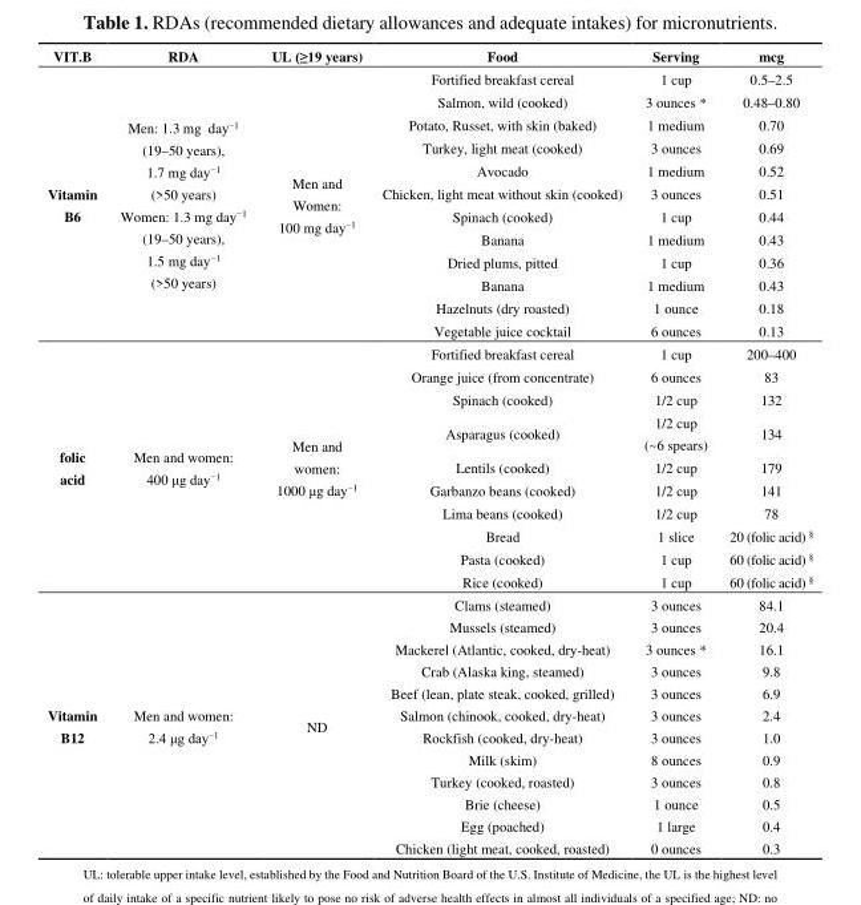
<table><thead><tr><td>VIT.B</td><td>RDA</td><td>UL (≥19 years)</td><td>Food</td><td>Serving</td><td>mcg</td></tr></thead><tbody><tr><td rowspan="12">Vitamin B6</td><td rowspan="12">Men: 1.3 mg day<sup>−1</sup> (19–50 years), 1.7 mg day<sup>−1</sup> (&gt;50 years) Women: 1.3 mg day<sup>−1</sup> (19–50 years), 1.5 mg day<sup>−1</sup> (&gt;50 years)</td><td rowspan="12">Men and Women: 100 mg day<sup>−1</sup></td><td>Fortified breakfast cereal</td><td>1 cup</td><td>0.5–2.5</td></tr><tr><td>Salmon, wild (cooked)</td><td>3 ounces *</td><td>0.48–0.80</td></tr><tr><td>Potato, Russet, with skin (baked)</td><td>1 medium</td><td>0.70</td></tr><tr><td>Turkey, light meat (cooked)</td><td>3 ounces</td><td>0.69</td></tr><tr><td>Avocado</td><td>1 medium</td><td>0.52</td></tr><tr><td>Chicken, light meat without skin (cooked)</td><td>3 ounces</td><td>0.51</td></tr><tr><td>Spinach (cooked)</td><td>1 cup</td><td>0.44</td></tr><tr><td>Banana</td><td>1 medium</td><td>0.43</td></tr><tr><td>Dried plums, pitted</td><td>1 cup</td><td>0.36</td></tr><tr><td>Banana</td><td>1 medium</td><td>0.43</td></tr><tr><td>Hazelnuts (dry roasted)</td><td>1 ounce</td><td>0.18</td></tr><tr><td>Vegetable juice cocktail</td><td>6 ounces</td><td>0.13</td></tr><tr><td rowspan="10">folic acid</td><td rowspan="10">Men and women: 400 μg day<sup>−1</sup></td><td rowspan="10">Men and women: 1000 μg day<sup>−1</sup></td><td>Fortified breakfast cereal</td><td>1 cup</td><td>200–400</td></tr><tr><td>Orange juice (from concentrate)</td><td>6 ounces</td><td>83</td></tr><tr><td>Spinach (cooked)</td><td>1/2 cup</td><td>132</td></tr><tr><td>Asparagus (cooked)</td><td>1/2 cup (~6 spears)</td><td>134</td></tr><tr><td>Lentils (cooked)</td><td>1/2 cup</td><td>179</td></tr><tr><td>Garbanzo beans (cooked)</td><td>1/2 cup</td><td>141</td></tr><tr><td>Lima beans (cooked)</td><td>1/2 cup</td><td>78</td></tr><tr><td>Bread</td><td>1 slice</td><td>20 (folic acid) <sup>§</sup></td></tr><tr><td>Pasta (cooked)</td><td>1 cup</td><td>60 (folic acid) <sup>§</sup></td></tr><tr><td>Rice (cooked)</td><td>1 cup</td><td>60 (folic acid) <sup>§</sup></td></tr><tr><td rowspan="12">Vitamin B12</td><td rowspan="12">Men and women: 2.4 μg day<sup>−1</sup></td><td rowspan="12">ND</td><td>Clams (steamed)</td><td>3 ounces</td><td>84.1</td></tr><tr><td>Mussels (steamed)</td><td>3 ounces</td><td>20.4</td></tr><tr><td>Mackerel (Atlantic, cooked, dry-heat)</td><td>3 ounces *</td><td>16.1</td></tr><tr><td>Crab (Alaska king, steamed)</td><td>3 ounces</td><td>9.8</td></tr><tr><td>Beef (lean, plate steak, cooked, grilled)</td><td>3 ounces</td><td>6.9</td></tr><tr><td>Salmon (chinook, cooked, dry-heat)</td><td>3 ounces</td><td>2.4</td></tr><tr><td>Rockfish (cooked, dry-heat)</td><td>3 ounces</td><td>1.0</td></tr><tr><td>Milk (skim)</td><td>8 ounces</td><td>0.9</td></tr><tr><td>Turkey (cooked, roasted)</td><td>3 ounces</td><td>0.8</td></tr><tr><td>Brie (cheese)</td><td>1 ounce</td><td>0.5</td></tr><tr><td>Egg (poached)</td><td>1 large</td><td>0.4</td></tr><tr><td>Chicken (light meat, cooked, roasted)</td><td>0 ounces</td><td>0.3</td></tr></tbody></table>